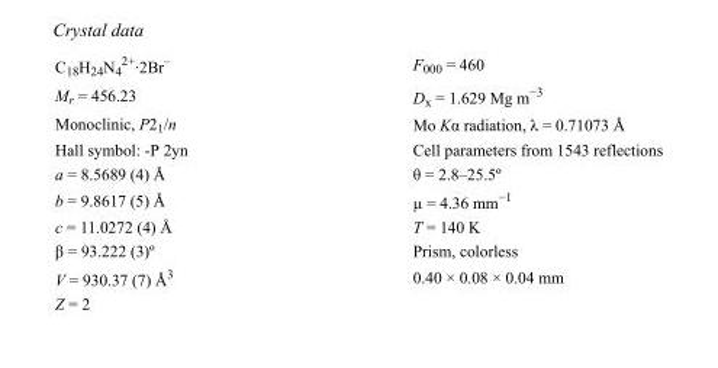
<table><tbody><tr><td>C<sub>18</sub>H<sub>24</sub>N<sub>4</sub> <sup>2+</sup>·2Br<sup>–</sup></td><td>F000 = 460</td></tr><tr><td>M<sub>r</sub> = 456.23</td><td>D<sub>x</sub> = 1.629 Mg m<sup>−3</sup></td></tr><tr><td>Monoclinic, P2<sub>1</sub>/n</td><td>Mo Kα radiation, λ = 0.71073 Å</td></tr><tr><td>Hall symbol: -P 2yn</td><td>Cell parameters from 1543 reflections</td></tr><tr><td>a = 8.5689 (4) Å</td><td>θ = 2.8–25.5º</td></tr><tr><td>b = 9.8617 (5) Å</td><td>µ = 4.36 mm<sup>−1</sup></td></tr><tr><td>c = 11.0272 (4) Å</td><td>T = 140 K</td></tr><tr><td>β = 93.222 (3)º</td><td>Prism, colorless</td></tr><tr><td>V = 930.37 (7) Å<sup>3</sup></td><td>0.40 × 0.08 × 0.04 mm</td></tr><tr><td>Z = 2</td><td></td></tr></tbody></table>